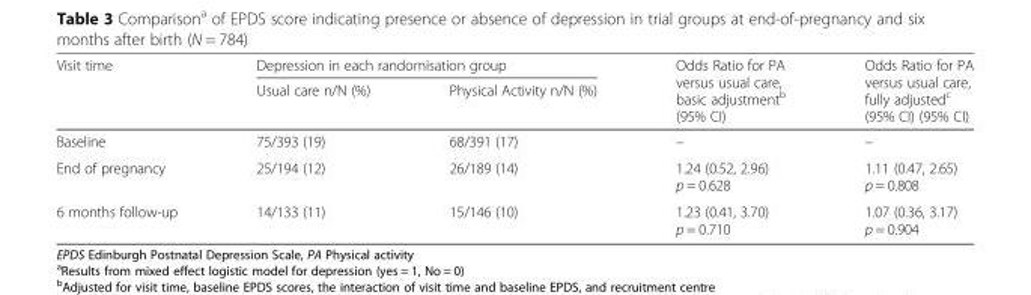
<table><thead><tr><td rowspan="2">Visit time</td><td colspan="2">Depression in each randomisation group</td><td rowspan="2">Odds Ratio for PA versus usual care, basic adjustment<sup>b</sup> (95% CI)</td><td rowspan="2">Odds Ratio for PA versus usual care, fully adjusted<sup>c</sup> (95% CI) (95% CI)</td></tr><tr><td>Usual care n/N (%)</td><td>Physical Activity n/N (%)</td></tr></thead><tbody><tr><td>Baseline</td><td>75/393 (19)</td><td>68/391 (17)</td><td>–</td><td>–</td></tr><tr><td>End of pregnancy</td><td>25/194 (12)</td><td>26/189 (14)</td><td>1.24 (0.52, 2.96) p = 0.628</td><td>1.11 (0.47, 2.65) p = 0.808</td></tr><tr><td>6 months follow-up</td><td>14/133 (11)</td><td>15/146 (10)</td><td>1.23 (0.41, 3.70) p = 0.710</td><td>1.07 (0.36, 3.17) p = 0.904</td></tr></tbody></table>